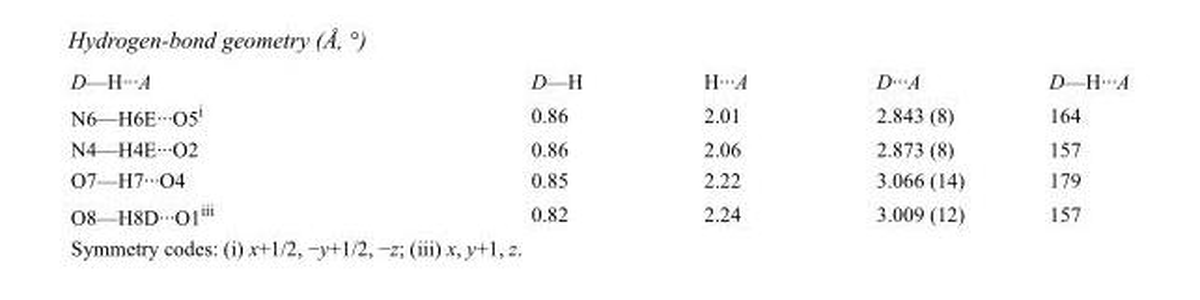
<table><tbody><tr><td>D—H···A</td><td>D—H</td><td>H···A</td><td>D···A</td><td>D—H···A</td></tr><tr><td>N6—H6E···O5<sup>i</sup></td><td>0.86</td><td>2.01</td><td>2.843 (8)</td><td>164</td></tr><tr><td>N4—H4E···O2</td><td>0.86</td><td>2.06</td><td>2.873 (8)</td><td>157</td></tr><tr><td>O7—H7···O4</td><td>0.85</td><td>2.22</td><td>3.066 (14)</td><td>179</td></tr><tr><td>O8—H8D···O1<sup>iii</sup></td><td>0.82</td><td>2.24</td><td>3.009 (12)</td><td>157</td></tr></tbody></table>